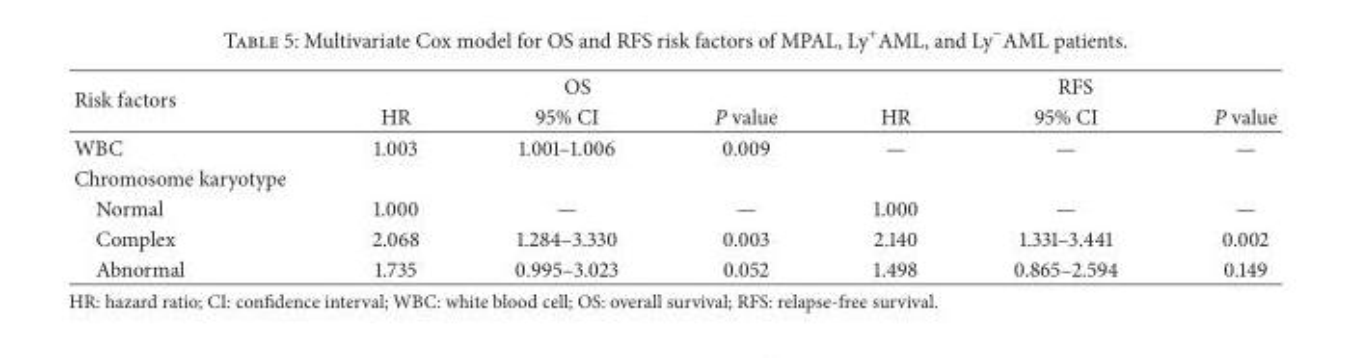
<table><thead><tr><td rowspan="2">Risk factors</td><td colspan="3">OS</td><td colspan="3">RFS</td></tr><tr><td>HR</td><td>95% CI</td><td>P value</td><td>HR</td><td>95% CI</td><td>P value</td></tr></thead><tbody><tr><td>WBC</td><td>1.003</td><td>1.001–1.006</td><td>0.009</td><td>—</td><td>—</td><td>—</td></tr><tr><td colspan="7">Chromosome karyotype</td></tr><tr><td>Normal</td><td>1.000</td><td>—</td><td>—</td><td>1.000</td><td>—</td><td>—</td></tr><tr><td>Complex</td><td>2.068</td><td>1.284–3.330</td><td>0.003</td><td>2.140</td><td>1.331–3.441</td><td>0.002</td></tr><tr><td>Abnormal</td><td>1.735</td><td>0.995–3.023</td><td>0.052</td><td>1.498</td><td>0.865–2.594</td><td>0.149</td></tr></tbody></table>